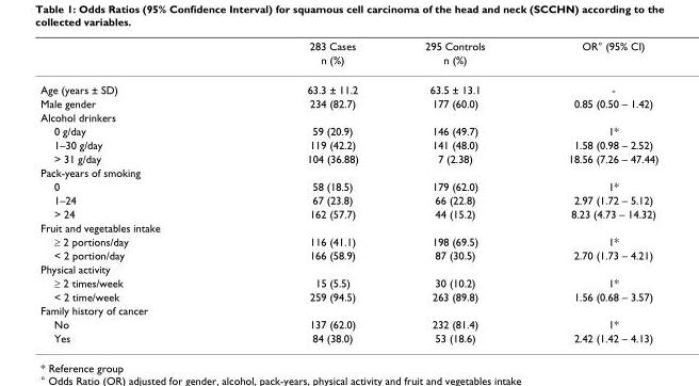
<table><thead><tr><td rowspan="2"></td><td rowspan="2">283 Cases n (%)</td><td rowspan="2">295 Controls n (%)</td><td rowspan="2">OR° (95% CI)</td></tr><tr></tr></thead><tbody><tr><td>Age (years ± SD)</td><td>63.3 ± 11.2</td><td>63.5 ± 13.1</td><td>-</td></tr><tr><td>Male gender</td><td>234 (82.7)</td><td>177 (60.0)</td><td>0.85 (0.50 – 1.42)</td></tr><tr><td colspan="4">Alcohol drinkers</td></tr><tr><td>0 g/day</td><td>59 (20.9)</td><td>146 (49.7)</td><td>1*</td></tr><tr><td>1–30 g/day</td><td>119 (42.2)</td><td>141 (48.0)</td><td>1.58 (0.98 – 2.52)</td></tr><tr><td>&gt; 31 g/day</td><td>104 (36.88)</td><td>7 (2.38)</td><td>18.56 (7.26 – 47.44)</td></tr><tr><td colspan="4">Pack-years of smoking</td></tr><tr><td>0</td><td>58 (18.5)</td><td>179 (62.0)</td><td>1*</td></tr><tr><td>1–24</td><td>67 (23.8)</td><td>66 (22.8)</td><td>2.97 (1.72 – 5.12)</td></tr><tr><td>&gt; 24</td><td>162 (57.7)</td><td>44 (15.2)</td><td>8.23 (4.73 – 14.32)</td></tr><tr><td colspan="4">Fruit and vegetables intake</td></tr><tr><td>≥ 2 portions/day</td><td>116 (41.1)</td><td>198 (69.5)</td><td>1*</td></tr><tr><td>&lt; 2 portion/day</td><td>166 (58.9)</td><td>87 (30.5)</td><td>2.70 (1.73 – 4.21)</td></tr><tr><td colspan="4">Physical activity</td></tr><tr><td>≥ 2 times/week</td><td>15 (5.5)</td><td>30 (10.2)</td><td>1*</td></tr><tr><td>&lt; 2 time/week</td><td>259 (94.5)</td><td>263 (89.8)</td><td>1.56 (0.68 – 3.57)</td></tr><tr><td colspan="4">Family history of cancer</td></tr><tr><td>No</td><td>137 (62.0)</td><td>232 (81.4)</td><td>1*</td></tr><tr><td>Yes</td><td>84 (38.0)</td><td>53 (18.6)</td><td>2.42 (1.42 – 4.13)</td></tr></tbody></table>